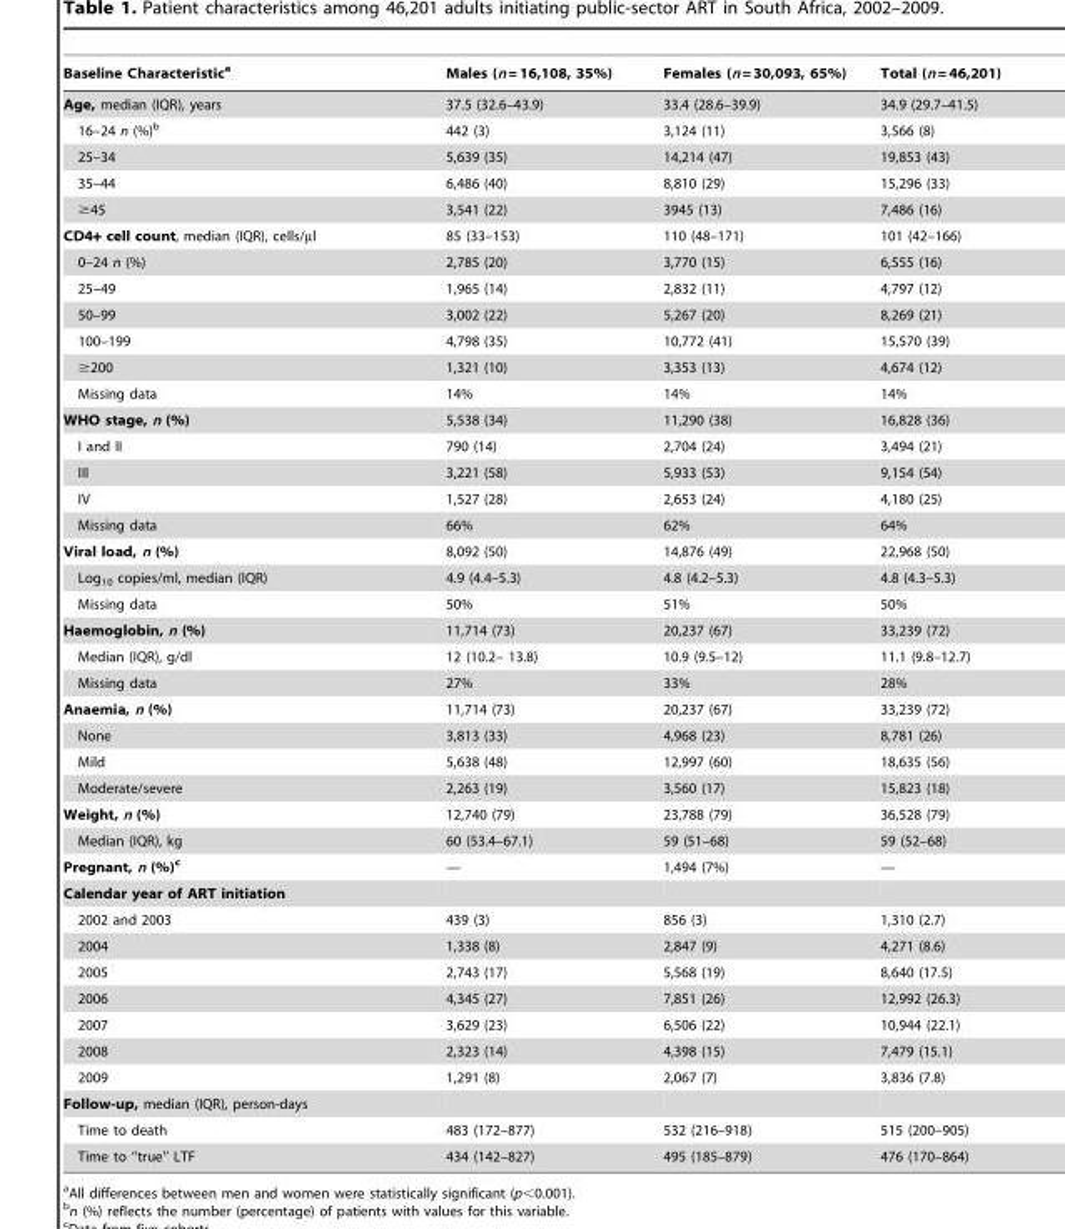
<table><thead><tr><td>Baseline Characteristic<sup>a</sup></td><td>Males (n = 16,108, 35%)</td><td>Females (n = 30,093, 65%)</td><td>Total (n = 46,201)</td></tr></thead><tbody><tr><td>Age, median (IQR), years</td><td>37.5 (32.6–43.9)</td><td>33.4 (28.6–39.9)</td><td>34.9 (29.7–41.5)</td></tr><tr><td>16–24 n (%)<sup>b</sup></td><td>442 (3)</td><td>3,124 (11)</td><td>3,566 (8)</td></tr><tr><td>25–34</td><td>5,639 (35)</td><td>14,214 (47)</td><td>19,853 (43)</td></tr><tr><td>35–44</td><td>6,486 (40)</td><td>8,810 (29)</td><td>15,296 (33)</td></tr><tr><td>≥45</td><td>3,541 (22)</td><td>3945 (13)</td><td>7,486 (16)</td></tr><tr><td>CD4+ cell count, median (IQR), cells/µl</td><td>85 (33–153)</td><td>110 (48–171)</td><td>101 (42–166)</td></tr><tr><td>0–24 n (%)</td><td>2,785 (20)</td><td>3,770 (15)</td><td>6,555 (16)</td></tr><tr><td>25–49</td><td>1,965 (14)</td><td>2,832 (11)</td><td>4,797 (12)</td></tr><tr><td>50–99</td><td>3,002 (22)</td><td>5,267 (20)</td><td>8,269 (21)</td></tr><tr><td>100–199</td><td>4,798 (35)</td><td>10,772 (41)</td><td>15,570 (39)</td></tr><tr><td>≥200</td><td>1,321 (10)</td><td>3,353 (13)</td><td>4,674 (12)</td></tr><tr><td>Missing data</td><td>14%</td><td>14%</td><td>14%</td></tr><tr><td>WHO stage, n (%)</td><td>5,538 (34)</td><td>11,290 (38)</td><td>16,828 (36)</td></tr><tr><td>I and II</td><td>790 (14)</td><td>2,704 (24)</td><td>3,494 (21)</td></tr><tr><td>III</td><td>3,221 (58)</td><td>5,933 (53)</td><td>9,154 (54)</td></tr><tr><td>IV</td><td>1,527 (28)</td><td>2,653 (24)</td><td>4,180 (25)</td></tr><tr><td>Missing data</td><td>66%</td><td>62%</td><td>64%</td></tr><tr><td>Viral load, n (%)</td><td>8,092 (50)</td><td>14,876 (49)</td><td>22,968 (50)</td></tr><tr><td>Log<sub>10</sub> copies/ml, median (IQR)</td><td>4.9 (4.4–5.3)</td><td>4.8 (4.2–5.3)</td><td>4.8 (4.3–5.3)</td></tr><tr><td>Missing data</td><td>50%</td><td>51%</td><td>50%</td></tr><tr><td>Haemoglobin, n (%)</td><td>11,714 (73)</td><td>20,237 (67)</td><td>33,239 (72)</td></tr><tr><td>Median (IQR), g/dl</td><td>12 (10.2– 13.8)</td><td>10.9 (9.5–12)</td><td>11.1 (9.8–12.7)</td></tr><tr><td>Missing data</td><td>27%</td><td>33%</td><td>28%</td></tr><tr><td>Anaemia, n (%)</td><td>11,714 (73)</td><td>20,237 (67)</td><td>33,239 (72)</td></tr><tr><td>None</td><td>3,813 (33)</td><td>4,968 (23)</td><td>8,781 (26)</td></tr><tr><td>Mild</td><td>5,638 (48)</td><td>12,997 (60)</td><td>18,635 (56)</td></tr><tr><td>Moderate/severe</td><td>2,263 (19)</td><td>3,560 (17)</td><td>15,823 (18)</td></tr><tr><td>Weight, n (%)</td><td>12,740 (79)</td><td>23,788 (79)</td><td>36,528 (79)</td></tr><tr><td>Median (IQR), kg</td><td>60 (53.4–67.1)</td><td>59 (51–68)</td><td>59 (52–68)</td></tr><tr><td>Pregnant, n (%)c</td><td>—</td><td>1,494 (7%)</td><td>—</td></tr><tr><td colspan="4">Calendar year of ART initiation</td></tr><tr><td>2002 and 2003</td><td>439 (3)</td><td>856 (3)</td><td>1,310 (2.7)</td></tr><tr><td>2004</td><td>1,338 (8)</td><td>2,847 (9)</td><td>4,271 (8.6)</td></tr><tr><td>2005</td><td>2,743 (17)</td><td>5,568 (19)</td><td>8,640 (17.5)</td></tr><tr><td>2006</td><td>4,345 (27)</td><td>7,851 (26)</td><td>12,992 (26.3)</td></tr><tr><td>2007</td><td>3,629 (23)</td><td>6,506 (22)</td><td>10,944 (22.1)</td></tr><tr><td>2008</td><td>2,323 (14)</td><td>4,398 (15)</td><td>7,479 (15.1)</td></tr><tr><td>2009</td><td>1,291 (8)</td><td>2,067 (7)</td><td>3,836 (7.8)</td></tr><tr><td colspan="4">Follow-up, median (IQR), person-days</td></tr><tr><td>Time to death</td><td>483 (172–877)</td><td>532 (216–918)</td><td>515 (200–905)</td></tr><tr><td>Time to ‘‘true’’ LTF</td><td>434 (142–827)</td><td>495 (185–879)</td><td>476 (170–864)</td></tr></tbody></table>